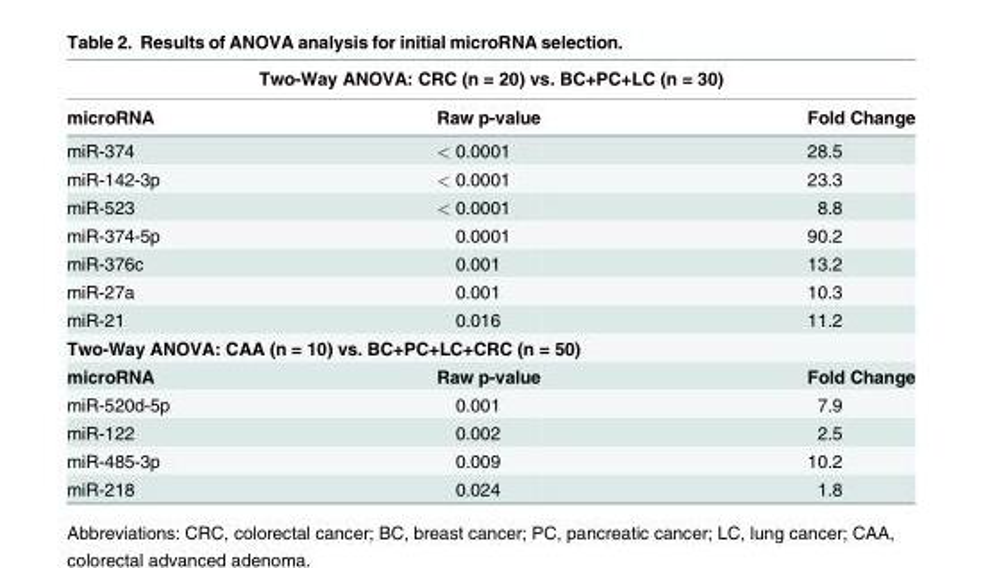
<table><thead><tr><td colspan="3">Two-Way ANOVA: CRC (n = 20) vs. BC+PC+LC (n = 30)</td></tr><tr><td>microRNA</td><td>Raw p-value</td><td>Fold Change</td></tr></thead><tbody><tr><td>miR-374</td><td>&lt; 0.0001</td><td>28.5</td></tr><tr><td>miR-142-3p</td><td>&lt; 0.0001</td><td>23.3</td></tr><tr><td>miR-523</td><td>&lt; 0.0001</td><td>8.8</td></tr><tr><td>miR-374-5p</td><td>0.0001</td><td>90.2</td></tr><tr><td>miR-376c</td><td>0.001</td><td>13.2</td></tr><tr><td>miR-27a</td><td>0.001</td><td>10.3</td></tr><tr><td>miR-21</td><td>0.016</td><td>11.2</td></tr><tr><td colspan="3">Two-Way ANOVA: CAA (n = 10) vs. BC+PC+LC+CRC (n = 50)</td></tr><tr><td>microRNA</td><td>Raw p-value</td><td>Fold Change</td></tr><tr><td>miR-520d-5p</td><td>0.001</td><td>7.9</td></tr><tr><td>miR-122</td><td>0.002</td><td>2.5</td></tr><tr><td>miR-485-3p</td><td>0.009</td><td>10.2</td></tr><tr><td>miR-218</td><td>0.024</td><td>1.8</td></tr></tbody></table>